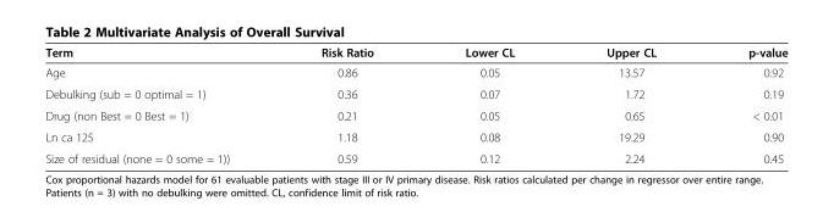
<table><thead><tr><td>Term</td><td>Risk Ratio</td><td>Lower CL</td><td>Upper CL</td><td>p-value</td></tr></thead><tbody><tr><td>Age</td><td>0.86</td><td>0.05</td><td>13.57</td><td>0.92</td></tr><tr><td>Debulking (sub = 0 optimal = 1)</td><td>0.36</td><td>0.07</td><td>1.72</td><td>0.19</td></tr><tr><td>Drug (non Best = 0 Best = 1)</td><td>0.21</td><td>0.05</td><td>0.65</td><td>&lt; 0.01</td></tr><tr><td>Ln ca 125</td><td>1.18</td><td>0.08</td><td>19.29</td><td>0.90</td></tr><tr><td>Size of residual (none = 0 some = 1))</td><td>0.59</td><td>0.12</td><td>2.24</td><td>0.45</td></tr></tbody></table>